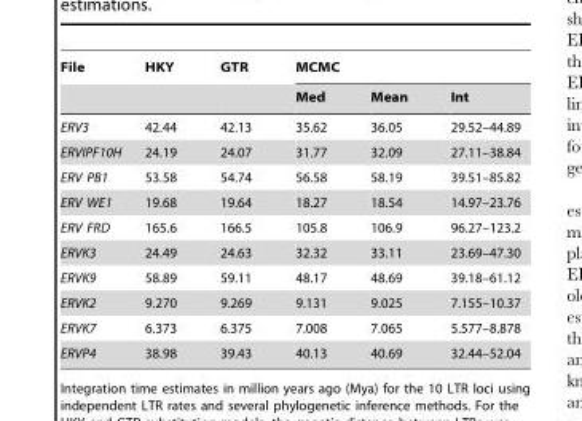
<table><thead><tr><td rowspan="2">File</td><td rowspan="2">HKY</td><td rowspan="2">GTR</td><td colspan="3">MCMC</td></tr><tr><td>Med</td><td>Mean</td><td>Int</td></tr></thead><tbody><tr><td>ERV3</td><td>42.44</td><td>42.13</td><td>35.62</td><td>36.05</td><td>29.52–44.89</td></tr><tr><td>ERVIPF10H</td><td>24.19</td><td>24.07</td><td>31.77</td><td>32.09</td><td>27.11–38.84</td></tr><tr><td>ERV PB1</td><td>53.58</td><td>54.74</td><td>56.58</td><td>58.19</td><td>39.51–85.82</td></tr><tr><td>ERV WE1</td><td>19.68</td><td>19.64</td><td>18.27</td><td>18.54</td><td>14.97–23.76</td></tr><tr><td>ERV FRD</td><td>165.6</td><td>166.5</td><td>105.8</td><td>106.9</td><td>96.27–123.2</td></tr><tr><td>ERVK3</td><td>24.49</td><td>24.63</td><td>32.32</td><td>33.11</td><td>23.69–47.30</td></tr><tr><td>ERVK9</td><td>58.89</td><td>59.11</td><td>48.17</td><td>48.69</td><td>39.18–61.12</td></tr><tr><td>ERVK2</td><td>9.270</td><td>9.269</td><td>9.131</td><td>9.025</td><td>7.155–10.37</td></tr><tr><td>ERVK7</td><td>6.373</td><td>6.375</td><td>7.008</td><td>7.065</td><td>5.577–8.878</td></tr><tr><td>ERVP4</td><td>38.98</td><td>39.43</td><td>40.13</td><td>40.69</td><td>32.44–52.04</td></tr></tbody></table>